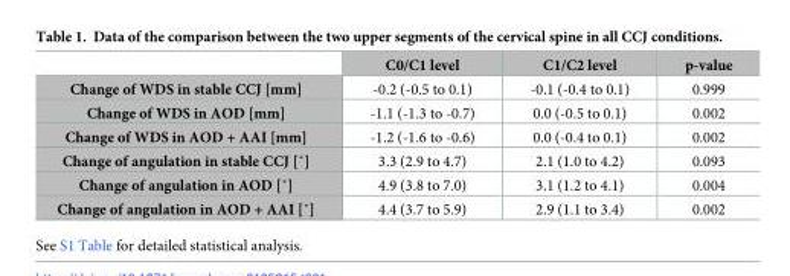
<table><thead><tr><td></td><td>C0/C1 level</td><td>C1/C2 level</td><td>p-value</td></tr></thead><tbody><tr><td>Change of WDS in stable CCJ [mm]</td><td>-0.2 (-0.5 to 0.1)</td><td>-0.1 (-0.4 to 0.1)</td><td>0.999</td></tr><tr><td>Change of WDS in AOD [mm]</td><td>-1.1 (-1.3 to -0.7)</td><td>0.0 (-0.5 to 0.1)</td><td>0.002</td></tr><tr><td>Change of WDS in AOD + AAI [mm]</td><td>-1.2 (-1.6 to -0.6)</td><td>0.0 (-0.4 to 0.1)</td><td>0.002</td></tr><tr><td>Change of angulation in stable CCJ [˚]</td><td>3.3 (2.9 to 4.7)</td><td>2.1 (1.0 to 4.2)</td><td>0.093</td></tr><tr><td>Change of angulation in AOD [˚]</td><td>4.9 (3.8 to 7.0)</td><td>3.1 (1.2 to 4.1)</td><td>0.004</td></tr><tr><td>Change of angulation in AOD + AAI [˚]</td><td>4.4 (3.7 to 5.9)</td><td>2.9 (1.1 to 3.4)</td><td>0.002</td></tr></tbody></table>